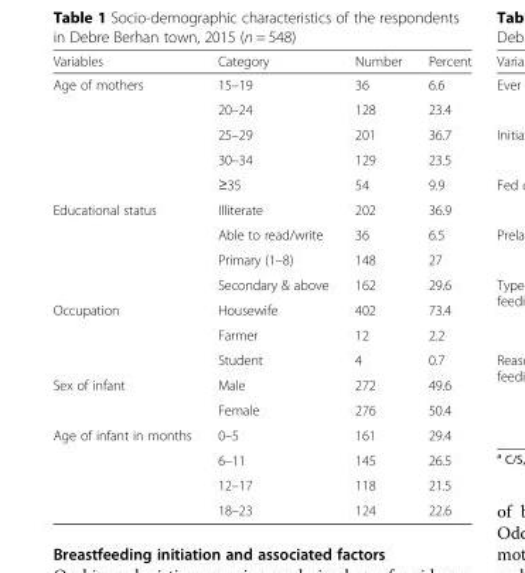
<table><thead><tr><td>Variables</td><td>Category</td><td>Number</td><td>Percent</td></tr></thead><tbody><tr><td rowspan="5">Age of mothers</td><td>15–19</td><td>36</td><td>6.6</td></tr><tr><td>20–24</td><td>128</td><td>23.4</td></tr><tr><td>25–29</td><td>201</td><td>36.7</td></tr><tr><td>30–34</td><td>129</td><td>23.5</td></tr><tr><td>≥35</td><td>54</td><td>9.9</td></tr><tr><td rowspan="4">Educational status</td><td>Illiterate</td><td>202</td><td>36.9</td></tr><tr><td>Able to read/write</td><td>36</td><td>6.5</td></tr><tr><td>Primary (1–8)</td><td>148</td><td>27</td></tr><tr><td>Secondary &amp; above</td><td>162</td><td>29.6</td></tr><tr><td rowspan="3">Occupation</td><td>Housewife</td><td>402</td><td>73.4</td></tr><tr><td>Farmer</td><td>12</td><td>2.2</td></tr><tr><td>Student</td><td>4</td><td>0.7</td></tr><tr><td rowspan="2">Sex of infant</td><td>Male</td><td>272</td><td>49.6</td></tr><tr><td>Female</td><td>276</td><td>50.4</td></tr><tr><td rowspan="4">Age of infant in months</td><td>0–5</td><td>161</td><td>29.4</td></tr><tr><td>6–11</td><td>145</td><td>26.5</td></tr><tr><td>12–17</td><td>118</td><td>21.5</td></tr><tr><td>18–23</td><td>124</td><td>22.6</td></tr></tbody></table>